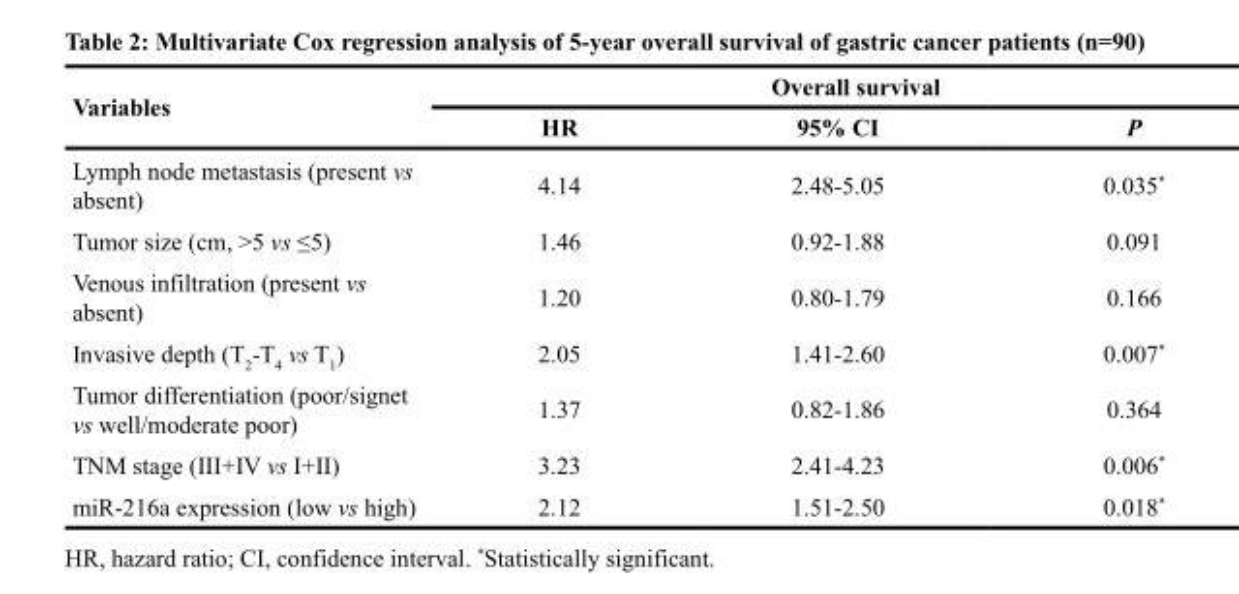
<table><thead><tr><td rowspan="2">Variables</td><td colspan="3">Overall survival</td></tr><tr><td>HR</td><td>95% CI</td><td>P</td></tr></thead><tbody><tr><td>Lymph node metastasis (present vs absent)</td><td>4.14</td><td>2.48-5.05</td><td>0.035*</td></tr><tr><td>Tumor size (cm, &gt;5 vs ≤5)</td><td>1.46</td><td>0.92-1.88</td><td>0.091</td></tr><tr><td>Venous infiltration (present vs absent)</td><td>1.20</td><td>0.80-1.79</td><td>0.166</td></tr><tr><td>Invasive depth (T2-T4 vs T1)</td><td>2.05</td><td>1.41-2.60</td><td>0.007*</td></tr><tr><td>Tumor differentiation (poor/signet vs well/moderate poor)</td><td>1.37</td><td>0.82-1.86</td><td>0.364</td></tr><tr><td>TNM stage (III+IV vs I+II)</td><td>3.23</td><td>2.41-4.23</td><td>0.006*</td></tr><tr><td>miR-216a expression (low vs high)</td><td>2.12</td><td>1.51-2.50</td><td>0.018*</td></tr></tbody></table>